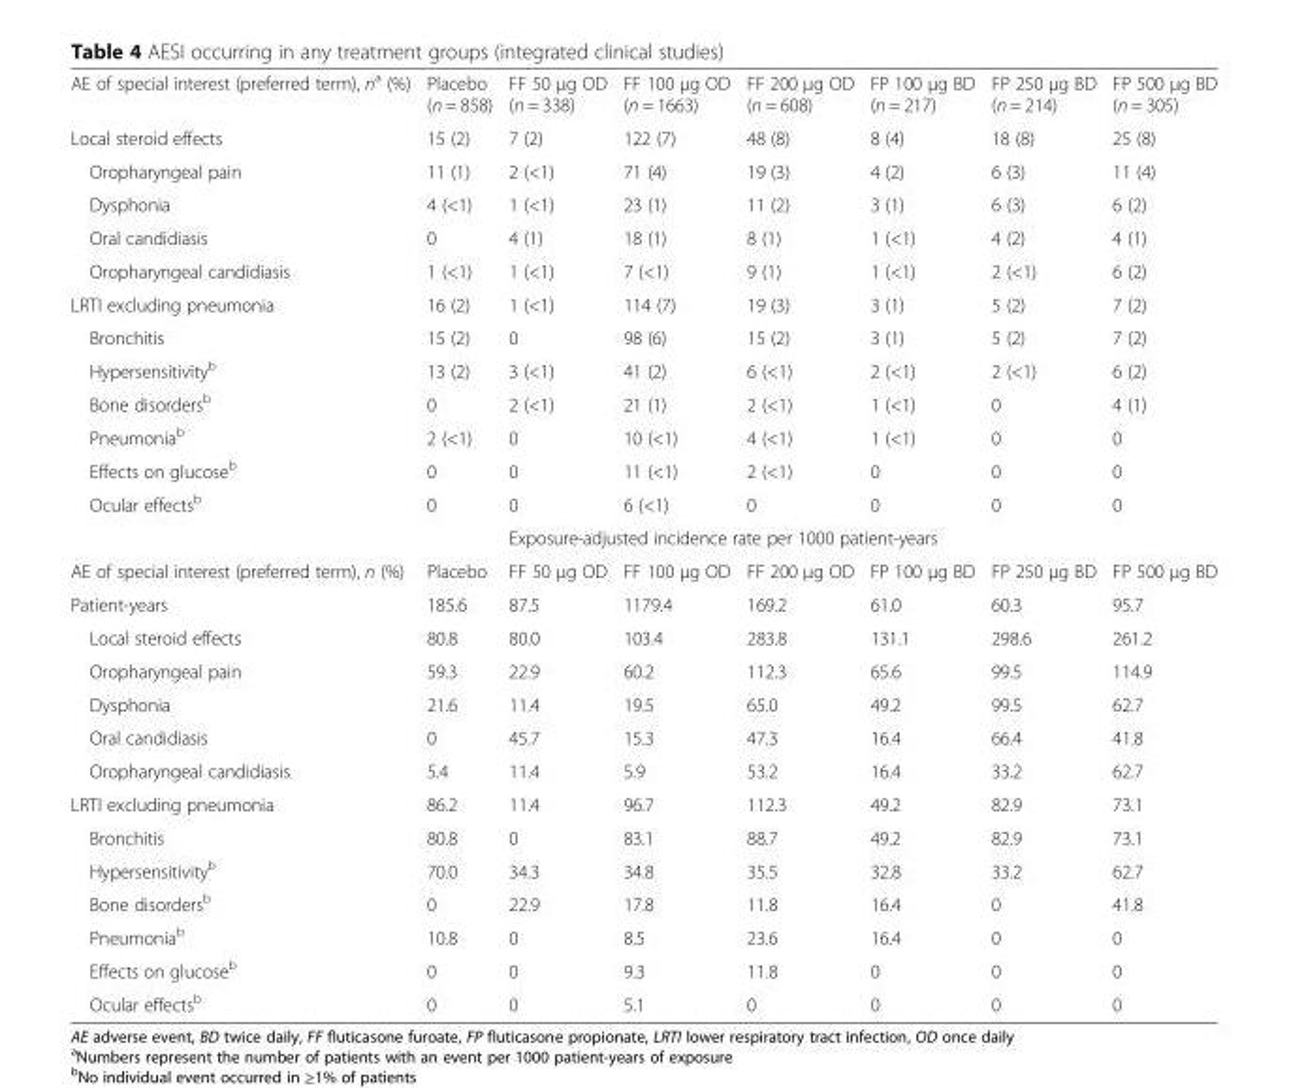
<table><tbody><tr><td>AE of special interest (preferred term), n<sup>a</sup> (%)</td><td>Placebo (n = 858)</td><td>FF 50 μg OD (n = 338)</td><td>FF 100 μg OD (n = 1663)</td><td>FF 200 μg OD (n = 608)</td><td>FP 100 μg BD (n = 217)</td><td>FP 250 μg BD (n = 214)</td><td>FP 500 μg BD (n = 305)</td></tr><tr><td>Local steroid effects</td><td>15 (2)</td><td>7 (2)</td><td>122 (7)</td><td>48 (8)</td><td>8 (4)</td><td>18 (8)</td><td>25 (8)</td></tr><tr><td>Oropharyngeal pain</td><td>11 (1)</td><td>2 (&lt;1)</td><td>71 (4)</td><td>19 (3)</td><td>4 (2)</td><td>6 (3)</td><td>11 (4)</td></tr><tr><td>Dysphonia</td><td>4 (&lt;1)</td><td>1 (&lt;1)</td><td>23 (1)</td><td>11 (2)</td><td>3 (1)</td><td>6 (3)</td><td>6 (2)</td></tr><tr><td>Oral candidiasis</td><td>0</td><td>4 (1)</td><td>18 (1)</td><td>8 (1)</td><td>1 (&lt;1)</td><td>4 (2)</td><td>4 (1)</td></tr><tr><td>Oropharyngeal candidiasis</td><td>1 (&lt;1)</td><td>1 (&lt;1)</td><td>7 (&lt;1)</td><td>9 (1)</td><td>1 (&lt;1)</td><td>2 (&lt;1)</td><td>6 (2)</td></tr><tr><td>LRTI excluding pneumonia</td><td>16 (2)</td><td>1 (&lt;1)</td><td>114 (7)</td><td>19 (3)</td><td>3 (1)</td><td>5 (2)</td><td>7 (2)</td></tr><tr><td>Bronchitis</td><td>15 (2)</td><td>0</td><td>98 (6)</td><td>15 (2)</td><td>3 (1)</td><td>5 (2)</td><td>7 (2)</td></tr><tr><td>Hypersensitivity<sup>b</sup></td><td>13 (2)</td><td>3 (&lt;1)</td><td>41 (2)</td><td>6 (&lt;1)</td><td>2 (&lt;1)</td><td>2 (&lt;1)</td><td>6 (2)</td></tr><tr><td>Bone disorders<sup>b</sup></td><td>0</td><td>2 (&lt;1)</td><td>21 (1)</td><td>2 (&lt;1)</td><td>1 (&lt;1)</td><td>0</td><td>4 (1)</td></tr><tr><td>Pneumonia<sup>b</sup></td><td>2 (&lt;1)</td><td>0</td><td>10 (&lt;1)</td><td>4 (&lt;1)</td><td>1 (&lt;1)</td><td>0</td><td>0</td></tr><tr><td>Effects on glucose<sup>b</sup></td><td>0</td><td>0</td><td>11 (&lt;1)</td><td>2 (&lt;1)</td><td>0</td><td>0</td><td>0</td></tr><tr><td rowspan="2">Ocular effects<sup>b</sup></td><td>0</td><td>0</td><td>6 (&lt;1)</td><td>0</td><td>0</td><td>0</td><td>0</td></tr><tr><td></td><td colspan="6">Exposure-adjusted incidence rate per 1000 patient-years</td></tr><tr><td>AE of special interest (preferred term), n (%)</td><td>Placebo</td><td>FF 50 μg OD</td><td>FF 100 μg OD</td><td>FF 200 μg OD</td><td>FP 100 μg BD</td><td>FP 250 μg BD</td><td>FP 500 μg BD</td></tr><tr><td>Patient-years</td><td>185.6</td><td>87.5</td><td>1179.4</td><td>169.2</td><td>61.0</td><td>60.3</td><td>95.7</td></tr><tr><td>Local steroid effects</td><td>80.8</td><td>80.0</td><td>103.4</td><td>283.8</td><td>131.1</td><td>298.6</td><td>261.2</td></tr><tr><td>Oropharyngeal pain</td><td>59.3</td><td>22.9</td><td>60.2</td><td>112.3</td><td>65.6</td><td>99.5</td><td>114.9</td></tr><tr><td>Dysphonia</td><td>21.6</td><td>11.4</td><td>19.5</td><td>65.0</td><td>49.2</td><td>99.5</td><td>62.7</td></tr><tr><td>Oral candidiasis</td><td>0</td><td>45.7</td><td>15.3</td><td>47.3</td><td>16.4</td><td>66.4</td><td>41.8</td></tr><tr><td>Oropharyngeal candidiasis</td><td>5.4</td><td>11.4</td><td>5.9</td><td>53.2</td><td>16.4</td><td>33.2</td><td>62.7</td></tr><tr><td>LRTI excluding pneumonia</td><td>86.2</td><td>11.4</td><td>96.7</td><td>112.3</td><td>49.2</td><td>82.9</td><td>73.1</td></tr><tr><td>Bronchitis</td><td>80.8</td><td>0</td><td>83.1</td><td>88.7</td><td>49.2</td><td>82.9</td><td>73.1</td></tr><tr><td>Hypersensitivity<sup>b</sup></td><td>70.0</td><td>34.3</td><td>34.8</td><td>35.5</td><td>32.8</td><td>33.2</td><td>62.7</td></tr><tr><td>Bone disorders<sup>b</sup></td><td>0</td><td>22.9</td><td>17.8</td><td>11.8</td><td>16.4</td><td>0</td><td>41.8</td></tr><tr><td>Pneumonia<sup>b</sup></td><td>10.8</td><td>0</td><td>8.5</td><td>23.6</td><td>16.4</td><td>0</td><td>0</td></tr><tr><td>Effects on glucose<sup>b</sup></td><td>0</td><td>0</td><td>9.3</td><td>11.8</td><td>0</td><td>0</td><td>0</td></tr><tr><td>Ocular effects<sup>b</sup></td><td>0</td><td>0</td><td>5.1</td><td>0</td><td>0</td><td>0</td><td>0</td></tr></tbody></table>